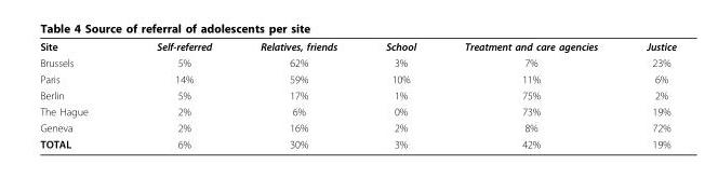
<table><tbody><tr><td>Site</td><td>Self-referred</td><td>Relatives, friends</td><td>School</td><td>Treatment and care agencies</td><td>Justice</td></tr><tr><td>Brussels</td><td>5%</td><td>62%</td><td>3%</td><td>7%</td><td>23%</td></tr><tr><td>Paris</td><td>14%</td><td>59%</td><td>10%</td><td>11%</td><td>6%</td></tr><tr><td>Berlin</td><td>5%</td><td>17%</td><td>1%</td><td>75%</td><td>2%</td></tr><tr><td>The Hague</td><td>2%</td><td>6%</td><td>0%</td><td>73%</td><td>19%</td></tr><tr><td>Geneva</td><td>2%</td><td>16%</td><td>2%</td><td>8%</td><td>72%</td></tr><tr><td>TOTAL</td><td>6%</td><td>30%</td><td>3%</td><td>42%</td><td>19%</td></tr></tbody></table>